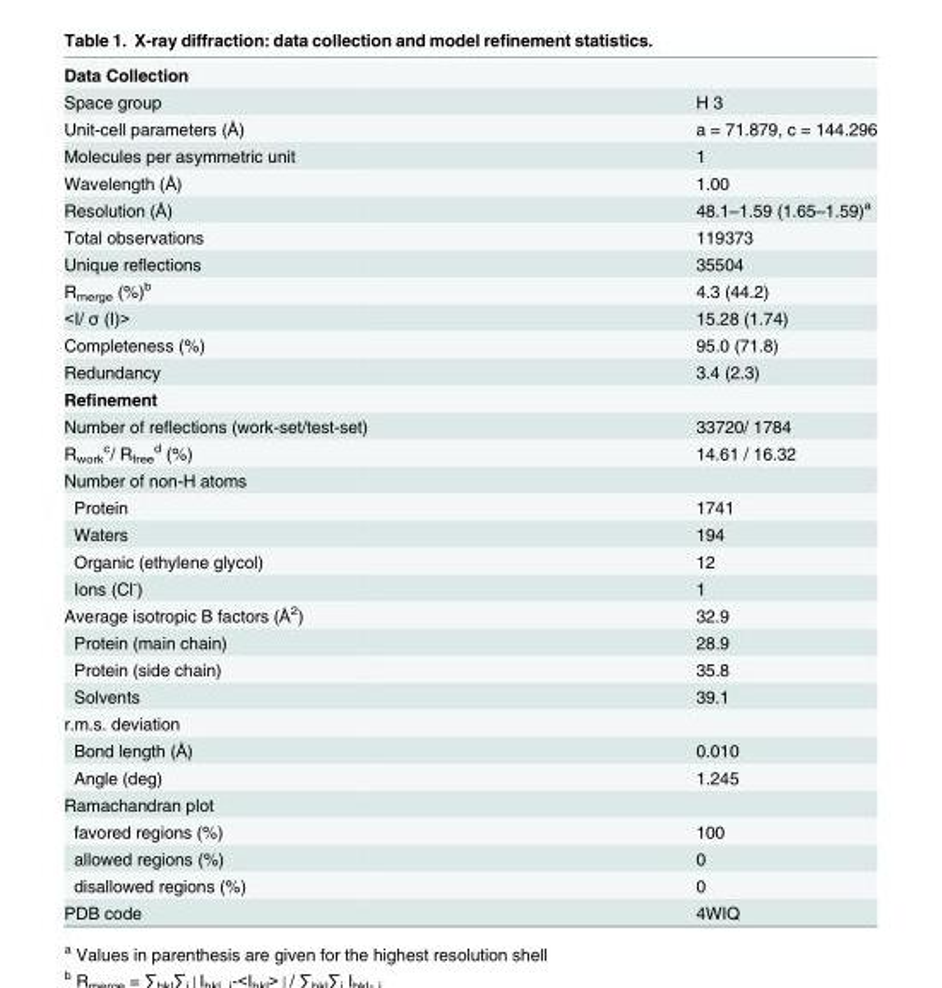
<table><tbody><tr><td colspan="2">Data Collection</td></tr><tr><td>Space group</td><td>H 3</td></tr><tr><td>Unit-cell parameters (Å)</td><td>a = 71.879, c = 144.296</td></tr><tr><td>Molecules per asymmetric unit</td><td>1</td></tr><tr><td>Wavelength (Å)</td><td>1.00</td></tr><tr><td>Resolution (Å)</td><td>48.1–1.59 (1.65–1.59)<sup>a</sup></td></tr><tr><td>Total observations</td><td>119373</td></tr><tr><td>Unique reflections</td><td>35504</td></tr><tr><td>R<sub>merge</sub> (%)<sup>b</sup></td><td>4.3 (44.2)</td></tr><tr><td>&lt;I/ σ (I)&gt;</td><td>15.28 (1.74)</td></tr><tr><td>Completeness (%)</td><td>95.0 (71.8)</td></tr><tr><td>Redundancy</td><td>3.4 (2.3)</td></tr><tr><td colspan="2">Refinement</td></tr><tr><td>Number of reflections (work-set/test-set)</td><td>33720/ 1784</td></tr><tr><td>R<sub>work</sub> <sup>c</sup>/ R<sub>free</sub> <sup>d</sup> (%)</td><td>14.61 / 16.32</td></tr><tr><td colspan="2">Number of non-H atoms</td></tr><tr><td>Protein</td><td>1741</td></tr><tr><td>Waters</td><td>194</td></tr><tr><td>Organic (ethylene glycol)</td><td>12</td></tr><tr><td>Ions (Cl<sup>-</sup>)</td><td>1</td></tr><tr><td>Average isotropic B factors (Å<sup>2</sup>)</td><td>32.9</td></tr><tr><td>Protein (main chain)</td><td>28.9</td></tr><tr><td>Protein (side chain)</td><td>35.8</td></tr><tr><td>Solvents</td><td>39.1</td></tr><tr><td colspan="2">r.m.s. deviation</td></tr><tr><td>Bond length (Å)</td><td>0.010</td></tr><tr><td>Angle (deg)</td><td>1.245</td></tr><tr><td colspan="2">Ramachandran plot</td></tr><tr><td>favored regions (%)</td><td>100</td></tr><tr><td>allowed regions (%)</td><td>0</td></tr><tr><td>disallowed regions (%)</td><td>0</td></tr><tr><td>PDB code</td><td>4WIQ</td></tr></tbody></table>